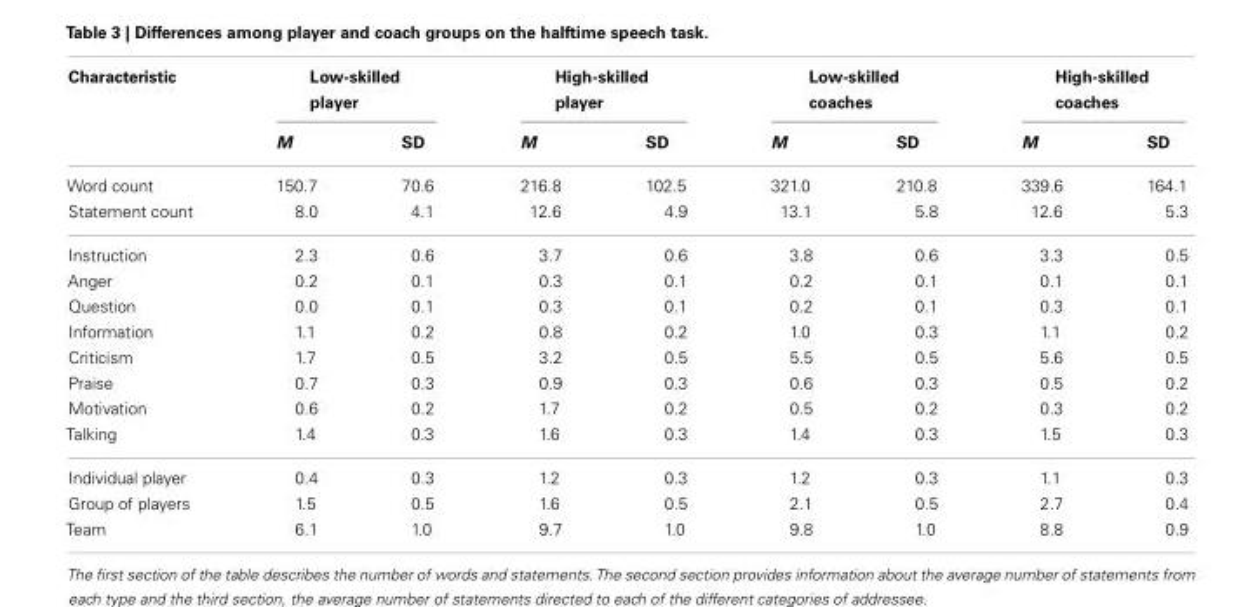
<table><thead><tr><td rowspan="2">Characteristic</td><td colspan="2">Low-skilled player</td><td colspan="2">High-skilled player</td><td colspan="2">Low-skilled coaches</td><td colspan="2">High-skilled coaches</td></tr><tr><td>M</td><td>SD</td><td>M</td><td>SD</td><td>M</td><td>SD</td><td>M</td><td>SD</td></tr></thead><tbody><tr><td>Word count</td><td>150.7</td><td>70.6</td><td>216.8</td><td>102.5</td><td>321.0</td><td>210.8</td><td>339.6</td><td>164.1</td></tr><tr><td>Statement count</td><td>8.0</td><td>4.1</td><td>12.6</td><td>4.9</td><td>13.1</td><td>5.8</td><td>12.6</td><td>5.3</td></tr><tr><td>Instruction</td><td>2.3</td><td>0.6</td><td>3.7</td><td>0.6</td><td>3.8</td><td>0.6</td><td>3.3</td><td>0.5</td></tr><tr><td>Anger</td><td>0.2</td><td>0.1</td><td>0.3</td><td>0.1</td><td>0.2</td><td>0.1</td><td>0.1</td><td>0.1</td></tr><tr><td>Question</td><td>0.0</td><td>0.1</td><td>0.3</td><td>0.1</td><td>0.2</td><td>0.1</td><td>0.3</td><td>0.1</td></tr><tr><td>Information</td><td>1.1</td><td>0.2</td><td>0.8</td><td>0.2</td><td>1.0</td><td>0.3</td><td>1.1</td><td>0.2</td></tr><tr><td>Criticism</td><td>1.7</td><td>0.5</td><td>3.2</td><td>0.5</td><td>5.5</td><td>0.5</td><td>5.6</td><td>0.5</td></tr><tr><td>Praise</td><td>0.7</td><td>0.3</td><td>0.9</td><td>0.3</td><td>0.6</td><td>0.3</td><td>0.5</td><td>0.2</td></tr><tr><td>Motivation</td><td>0.6</td><td>0.2</td><td>1.7</td><td>0.2</td><td>0.5</td><td>0.2</td><td>0.3</td><td>0.2</td></tr><tr><td>Talking</td><td>1.4</td><td>0.3</td><td>1.6</td><td>0.3</td><td>1.4</td><td>0.3</td><td>1.5</td><td>0.3</td></tr><tr><td>Individual player</td><td>0.4</td><td>0.3</td><td>1.2</td><td>0.3</td><td>1.2</td><td>0.3</td><td>1.1</td><td>0.3</td></tr><tr><td>Group of players</td><td>1.5</td><td>0.5</td><td>1.6</td><td>0.5</td><td>2.1</td><td>0.5</td><td>2.7</td><td>0.4</td></tr><tr><td>Team</td><td>6.1</td><td>1.0</td><td>9.7</td><td>1.0</td><td>9.8</td><td>1.0</td><td>8.8</td><td>0.9</td></tr></tbody></table>